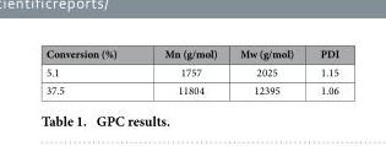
<table><thead><tr><td>Conversion (%)</td><td>Mn (g/mol)</td><td>Mw (g/mol)</td><td>PDI</td></tr></thead><tbody><tr><td>5.1</td><td>1757</td><td>2025</td><td>1.15</td></tr><tr><td>37.5</td><td>11804</td><td>12395</td><td>1.06</td></tr></tbody></table>